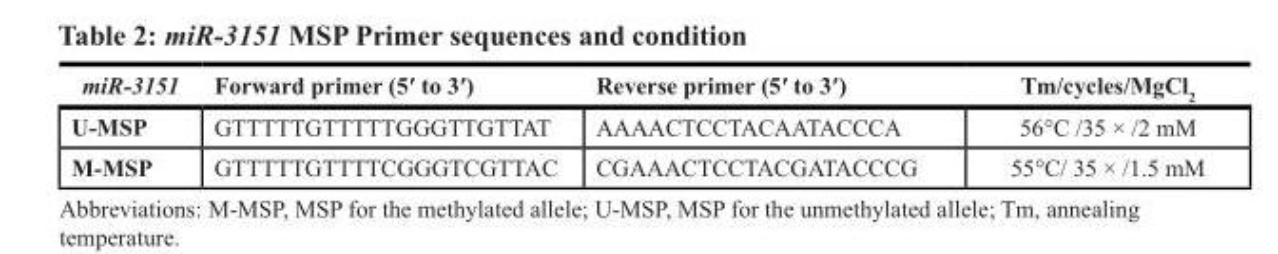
<table><thead><tr><td>miR-3151</td><td>Forward primer (5′ to 3′)</td><td>Reverse primer (5′ to 3′)</td><td>Tm/cycles/MgCl<sub>2</sub></td></tr></thead><tbody><tr><td>U-MSP</td><td>GTTTTTGTTTTTGGGTTGTTAT</td><td>AAAACTCCTACAATACCCA</td><td>56°C /35 × /2 mM</td></tr><tr><td>M-MSP</td><td>GTTTTTGTTTTCGGGTCGTTAC</td><td>CGAAACTCCTACGATACCCG</td><td>55°C/ 35 × /1.5 mM</td></tr></tbody></table>